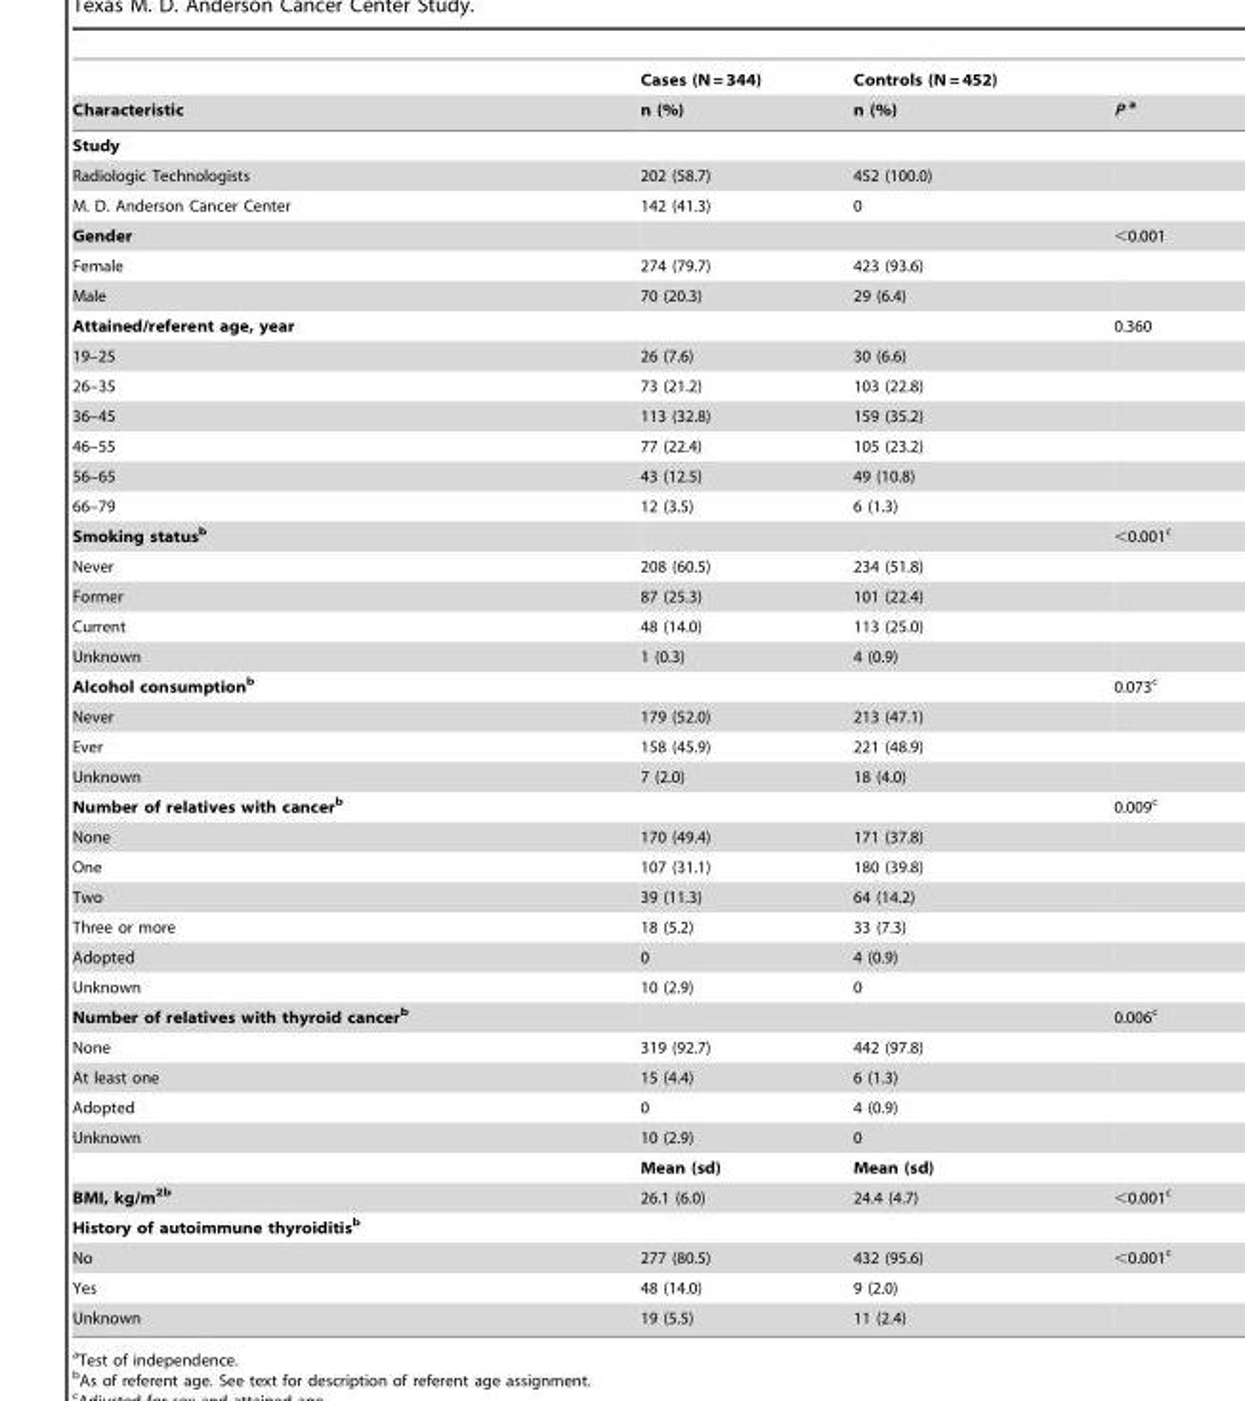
<table><thead><tr><td rowspan="2">Characteristic</td><td rowspan="2">Cases (N = 344) n (%)</td><td rowspan="2">Controls (N = 452) n (%)</td><td rowspan="2">P a</td></tr><tr></tr></thead><tbody><tr><td colspan="4">Study</td></tr><tr><td>Radiologic Technologists</td><td>202 (58.7)</td><td>452 (100.0)</td><td></td></tr><tr><td>M. D. Anderson Cancer Center</td><td>142 (41.3)</td><td>0</td><td></td></tr><tr><td>Gender</td><td></td><td></td><td>&lt;0.001</td></tr><tr><td>Female</td><td>274 (79.7)</td><td>423 (93.6)</td><td></td></tr><tr><td>Male</td><td>70 (20.3)</td><td>29 (6.4)</td><td></td></tr><tr><td>Attained/referent age, year</td><td></td><td></td><td>0.360</td></tr><tr><td>19–25</td><td>26 (7.6)</td><td>30 (6.6)</td><td></td></tr><tr><td>26–35</td><td>73 (21.2)</td><td>103 (22.8)</td><td></td></tr><tr><td>36–45</td><td>113 (32.8)</td><td>159 (35.2)</td><td></td></tr><tr><td>46–55</td><td>77 (22.4)</td><td>105 (23.2)</td><td></td></tr><tr><td>56–65</td><td>43 (12.5)</td><td>49 (10.8)</td><td></td></tr><tr><td>66–79</td><td>12 (3.5)</td><td>6 (1.3)</td><td></td></tr><tr><td>Smoking statusb</td><td></td><td></td><td>&lt;0.001<sup>c</sup></td></tr><tr><td>Never</td><td>208 (60.5)</td><td>234 (51.8)</td><td></td></tr><tr><td>Former</td><td>87 (25.3)</td><td>101 (22.4)</td><td></td></tr><tr><td>Current</td><td>48 (14.0)</td><td>113 (25.0)</td><td></td></tr><tr><td>Unknown</td><td>1 (0.3)</td><td>4 (0.9)</td><td></td></tr><tr><td>Alcohol consumptionb</td><td></td><td></td><td>0.073<sup>c</sup></td></tr><tr><td>Never</td><td>179 (52.0)</td><td>213 (47.1)</td><td></td></tr><tr><td>Ever</td><td>158 (45.9)</td><td>221 (48.9)</td><td></td></tr><tr><td>Unknown</td><td>7 (2.0)</td><td>18 (4.0)</td><td></td></tr><tr><td>Number of relatives with cancerb</td><td></td><td></td><td>0.009<sup>c</sup></td></tr><tr><td>None</td><td>170 (49.4)</td><td>171 (37.8)</td><td></td></tr><tr><td>One</td><td>107 (31.1)</td><td>180 (39.8)</td><td></td></tr><tr><td>Two</td><td>39 (11.3)</td><td>64 (14.2)</td><td></td></tr><tr><td>Three or more</td><td>18 (5.2)</td><td>33 (7.3)</td><td></td></tr><tr><td>Adopted</td><td>0</td><td>4 (0.9)</td><td></td></tr><tr><td>Unknown</td><td>10 (2.9)</td><td>0</td><td></td></tr><tr><td>Number of relatives with thyroid cancerb</td><td></td><td></td><td>0.006<sup>c</sup></td></tr><tr><td>None</td><td>319 (92.7)</td><td>442 (97.8)</td><td></td></tr><tr><td>At least one</td><td>15 (4.4)</td><td>6 (1.3)</td><td></td></tr><tr><td>Adopted</td><td>0</td><td>4 (0.9)</td><td></td></tr><tr><td rowspan="2">Unknown</td><td>10 (2.9)</td><td>0</td><td></td></tr><tr><td>Mean (sd)</td><td>Mean (sd)</td><td></td></tr><tr><td>BMI, kg/m<sup>2b</sup></td><td>26.1 (6.0)</td><td>24.4 (4.7)</td><td>&lt;0.001<sup>c</sup></td></tr><tr><td colspan="4">History of autoimmune thyroiditisb</td></tr><tr><td>No</td><td>277 (80.5)</td><td>432 (95.6)</td><td>&lt;0.001<sup>c</sup></td></tr><tr><td>Yes</td><td>48 (14.0)</td><td>9 (2.0)</td><td></td></tr><tr><td>Unknown</td><td>19 (5.5)</td><td>11 (2.4)</td><td></td></tr></tbody></table>